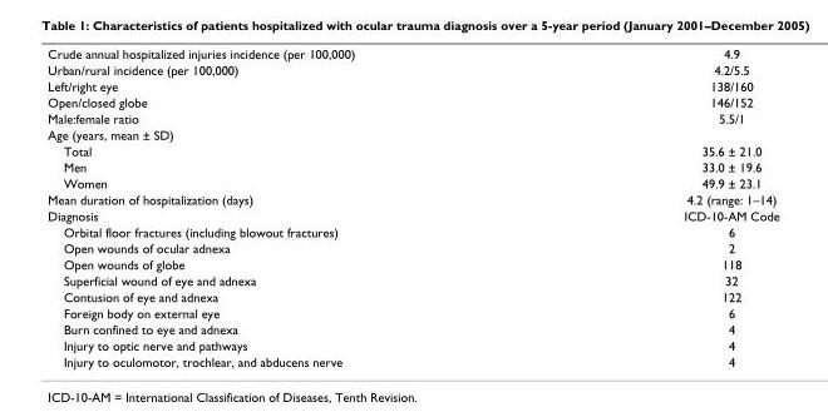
<table><tbody><tr><td>Crude annual hospitalized injuries incidence (per 100,000)</td><td>4.9</td></tr><tr><td>Urban/rural incidence (per 100,000)</td><td>4.2/5.5</td></tr><tr><td>Left/right eye</td><td>138/160</td></tr><tr><td>Open/closed globe</td><td>146/152</td></tr><tr><td>Male:female ratio</td><td>5.5/1</td></tr><tr><td colspan="2">Age (years, mean ± SD)</td></tr><tr><td>Total</td><td>35.6 ± 21.0</td></tr><tr><td>Men</td><td>33.0 ± 19.6</td></tr><tr><td>Women</td><td>49.9 ± 23.1</td></tr><tr><td>Mean duration of hospitalization (days)</td><td>4.2 (range: 1–14)</td></tr><tr><td>Diagnosis</td><td>ICD-10-AM Code</td></tr><tr><td>Orbital floor fractures (including blowout fractures)</td><td>6</td></tr><tr><td>Open wounds of ocular adnexa</td><td>2</td></tr><tr><td>Open wounds of globe</td><td>118</td></tr><tr><td>Superficial wound of eye and adnexa</td><td>32</td></tr><tr><td>Contusion of eye and adnexa</td><td>122</td></tr><tr><td>Foreign body on external eye</td><td>6</td></tr><tr><td>Burn confined to eye and adnexa</td><td>4</td></tr><tr><td>Injury to optic nerve and pathways</td><td>4</td></tr><tr><td>Injury to oculomotor, trochlear, and abducens nerve</td><td>4</td></tr></tbody></table>